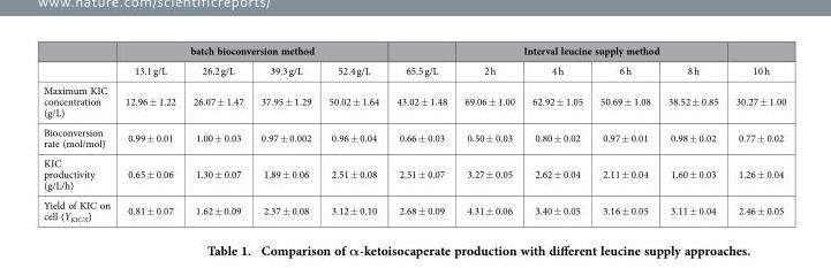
<table><thead><tr><td rowspan="2"></td><td colspan="4">batch bioconversion method</td><td rowspan="2">65.5 g/L</td><td colspan="4">Interval leucine supply method</td><td rowspan="2">10 h</td></tr><tr><td>13.1 g/L</td><td>26.2 g/L</td><td>39.3 g/L</td><td>52.4 g/L</td><td>2 h</td><td>4 h</td><td>6 h</td><td>8 h</td></tr></thead><tbody><tr><td>Maximum KIC concentration (g/L)</td><td>12.96 ± 1.22</td><td>26.07 ± 1.47</td><td>37.95 ± 1.29</td><td>50.02 ± 1.64</td><td>43.02 ± 1.48</td><td>69.06 ± 1.00</td><td>62.92 ± 1.05</td><td>50.69 ± 1.08</td><td>38.52 ± 0.85</td><td>30.27 ± 1.00</td></tr><tr><td>Bioconversion rate (mol/mol)</td><td>0.99 ± 0.01</td><td>1.00 ± 0.03</td><td>0.97 ± 0.002</td><td>0.96 ± 0.04</td><td>0.66 ± 0.03</td><td>0.50 ± 0.03</td><td>0.80 ± 0.02</td><td>0.97 ± 0.01</td><td>0.98 ± 0.02</td><td>0.77 ± 0.02</td></tr><tr><td>KIC productivity (g/L/h)</td><td>0.65 ± 0.06</td><td>1.30 ± 0.07</td><td>1.89 ± 0.06</td><td>2.51 ± 0.08</td><td>2.51 ± 0.07</td><td>3.27 ± 0.05</td><td>2.62 ± 0.04</td><td>2.11 ± 0.04</td><td>1.60 ± 0.03</td><td>1.26 ± 0.04</td></tr><tr><td>Yield of KIC on cell (Y<sub>KIC/X</sub>)</td><td>0.81 ± 0.07</td><td>1.62 ± 0.09</td><td>2.37 ± 0.08</td><td>3.12 ± 0.10</td><td>2.68 ± 0.09</td><td>4.31 ± 0.06</td><td>3.40 ± 0.05</td><td>3.16 ± 0.05</td><td>3.11 ± 0.04</td><td>2.46 ± 0.05</td></tr></tbody></table>